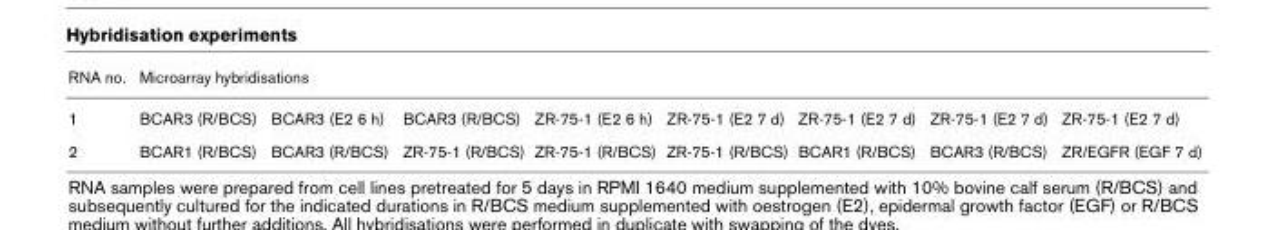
<table><thead><tr><td rowspan="2">RNA no. 1</td><td colspan="8">Microarray hybridisations</td></tr><tr><td>BCAR3 (R/BCS)</td><td>BCAR3 (E2 6 h)</td><td>BCAR3 (R/BCS)</td><td>ZR-75-1 (E2 6 h)</td><td>ZR-75-1 (E2 7 d)</td><td>ZR-75-1 (E2 7 d)</td><td>ZR-75-1 (E2 7 d)</td><td>ZR-75-1 (E2 7 d)</td></tr></thead><tbody><tr><td>2</td><td>BCAR1 (R/BCS)</td><td>BCAR3 (R/BCS)</td><td>ZR-75-1 (R/BCS)</td><td>ZR-75-1 (R/BCS)</td><td>ZR-75-1 (R/BCS)</td><td>BCAR1 (R/BCS)</td><td>BCAR3 (R/BCS)</td><td>ZR/EGFR (EGF 7 d)</td></tr></tbody></table>